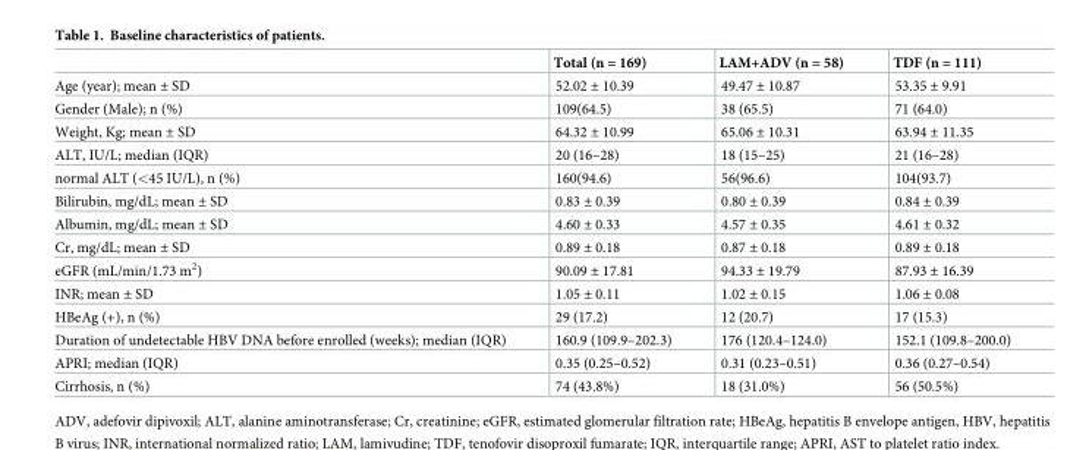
<table><thead><tr><td></td><td>Total (n = 169)</td><td>LAM+ADV (n = 58)</td><td>TDF (n = 111)</td></tr></thead><tbody><tr><td>Age (year); mean ± SD</td><td>52.02 ± 10.39</td><td>49.47 ± 10.87</td><td>53.35 ± 9.91</td></tr><tr><td>Gender (Male); n (%)</td><td>109(64.5)</td><td>38 (65.5)</td><td>71 (64.0)</td></tr><tr><td>Weight, Kg; mean ± SD</td><td>64.32 ± 10.99</td><td>65.06 ± 10.31</td><td>63.94 ± 11.35</td></tr><tr><td>ALT, IU/L; median (IQR)</td><td>20 (16–28)</td><td>18 (15–25)</td><td>21 (16–28)</td></tr><tr><td>normal ALT (&lt;45 IU/L), n (%)</td><td>160(94.6)</td><td>56(96.6)</td><td>104(93.7)</td></tr><tr><td>Bilirubin, mg/dL; mean ± SD</td><td>0.83 ± 0.39</td><td>0.80 ± 0.39</td><td>0.84 ± 0.39</td></tr><tr><td>Albumin, mg/dL; mean ± SD</td><td>4.60 ± 0.33</td><td>4.57 ± 0.35</td><td>4.61 ± 0.32</td></tr><tr><td>Cr, mg/dL; mean ± SD</td><td>0.89 ± 0.18</td><td>0.87 ± 0.18</td><td>0.89 ± 0.18</td></tr><tr><td>eGFR (mL/min/1.73 m<sup>2</sup>)</td><td>90.09 ± 17.81</td><td>94.33 ± 19.79</td><td>87.93 ± 16.39</td></tr><tr><td>INR; mean ± SD</td><td>1.05 ± 0.11</td><td>1.02 ± 0.15</td><td>1.06 ± 0.08</td></tr><tr><td>HBeAg (+), n (%)</td><td>29 (17.2)</td><td>12 (20.7)</td><td>17 (15.3)</td></tr><tr><td>Duration of undetectable HBV DNA before enrolled (weeks); median (IQR)</td><td>160.9 (109.9–202.3)</td><td>176 (120.4–124.0)</td><td>152.1 (109.8–200.0)</td></tr><tr><td>APRI; median (IQR)</td><td>0.35 (0.25–0.52)</td><td>0.31 (0.23–0.51)</td><td>0.36 (0.27–0.54)</td></tr><tr><td>Cirrhosis, n (%)</td><td>74 (43.8%)</td><td>18 (31.0%)</td><td>56 (50.5%)</td></tr></tbody></table>